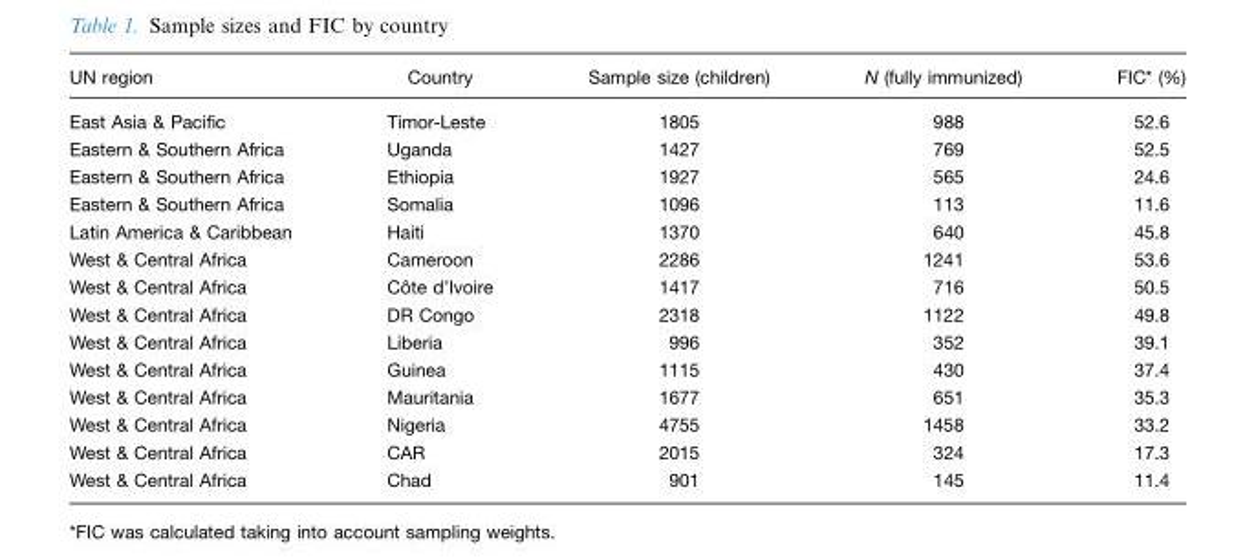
<table><thead><tr><td>UN region</td><td>Country</td><td>Sample size (children)</td><td>N (fully immunized)</td><td>FIC* (%)</td></tr></thead><tbody><tr><td>East Asia &amp; Pacific</td><td>Timor-Leste</td><td>1805</td><td>988</td><td>52.6</td></tr><tr><td>Eastern &amp; Southern Africa</td><td>Uganda</td><td>1427</td><td>769</td><td>52.5</td></tr><tr><td>Eastern &amp; Southern Africa</td><td>Ethiopia</td><td>1927</td><td>565</td><td>24.6</td></tr><tr><td>Eastern &amp; Southern Africa</td><td>Somalia</td><td>1096</td><td>113</td><td>11.6</td></tr><tr><td>Latin America &amp; Caribbean</td><td>Haiti</td><td>1370</td><td>640</td><td>45.8</td></tr><tr><td>West &amp; Central Africa</td><td>Cameroon</td><td>2286</td><td>1241</td><td>53.6</td></tr><tr><td>West &amp; Central Africa</td><td>Coˆ te d’Ivoire</td><td>1417</td><td>716</td><td>50.5</td></tr><tr><td>West &amp; Central Africa</td><td>DR Congo</td><td>2318</td><td>1122</td><td>49.8</td></tr><tr><td>West &amp; Central Africa</td><td>Liberia</td><td>996</td><td>352</td><td>39.1</td></tr><tr><td>West &amp; Central Africa</td><td>Guinea</td><td>1115</td><td>430</td><td>37.4</td></tr><tr><td>West &amp; Central Africa</td><td>Mauritania</td><td>1677</td><td>651</td><td>35.3</td></tr><tr><td>West &amp; Central Africa</td><td>Nigeria</td><td>4755</td><td>1458</td><td>33.2</td></tr><tr><td>West &amp; Central Africa</td><td>CAR</td><td>2015</td><td>324</td><td>17.3</td></tr><tr><td>West &amp; Central Africa</td><td>Chad</td><td>901</td><td>145</td><td>11.4</td></tr></tbody></table>